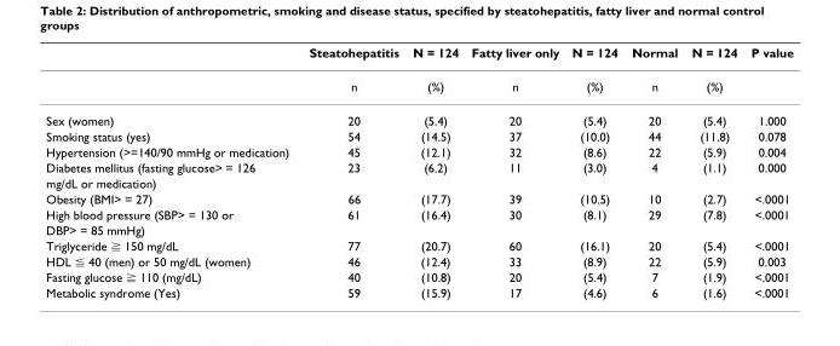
<table><thead><tr><td></td><td>Steatohepatitis</td><td>N = 124</td><td>Fatty liver only</td><td>N = 124</td><td>Normal</td><td>N = 124</td><td>P value</td></tr></thead><tbody><tr><td></td><td>n</td><td>(%)</td><td>n</td><td>(%)</td><td>n</td><td>(%)</td><td></td></tr><tr><td>Sex (women)</td><td>20</td><td>(5.4)</td><td>20</td><td>(5.4)</td><td>20</td><td>(5.4)</td><td>1.000</td></tr><tr><td>Smoking status (yes)</td><td>54</td><td>(14.5)</td><td>37</td><td>(10.0)</td><td>44</td><td>(11.8)</td><td>0.078</td></tr><tr><td>Hypertension (&gt;=140/90 mmHg or medication)</td><td>45</td><td>(12.1)</td><td>32</td><td>(8.6)</td><td>22</td><td>(5.9)</td><td>0.004</td></tr><tr><td>Diabetes mellitus (fasting glucose&gt; = 126</td><td>23</td><td>(6.2)</td><td>11</td><td>(3.0)</td><td>4</td><td>(1.1)</td><td>0.000</td></tr><tr><td colspan="8">mg/dL or medication)</td></tr><tr><td>Obesity (BMI&gt; = 27)</td><td>66</td><td>(17.7)</td><td>39</td><td>(10.5)</td><td>10</td><td>(2.7)</td><td>&lt;.0001</td></tr><tr><td>High blood pressure (SBP&gt; = 130 or</td><td>61</td><td>(16.4)</td><td>30</td><td>(8.1)</td><td>29</td><td>(7.8)</td><td>&lt;.0001</td></tr><tr><td colspan="8">DBP&gt; = 85 mmHg)</td></tr><tr><td>Triglyceride ≧ 150 mg/dL</td><td>77</td><td>(20.7)</td><td>60</td><td>(16.1)</td><td>20</td><td>(5.4)</td><td>&lt;.0001</td></tr><tr><td>HDL ≦ 40 (men) or 50 mg/dL (women)</td><td>46</td><td>(12.4)</td><td>33</td><td>(8.9)</td><td>22</td><td>(5.9)</td><td>0.003</td></tr><tr><td>Fasting glucose ≧ 110 (mg/dL)</td><td>40</td><td>(10.8)</td><td>20</td><td>(5.4)</td><td>7</td><td>(1.9)</td><td>&lt;.0001</td></tr><tr><td>Metabolic syndrome (Yes)</td><td>59</td><td>(15.9)</td><td>17</td><td>(4.6)</td><td>6</td><td>(1.6)</td><td>&lt;.0001</td></tr></tbody></table>